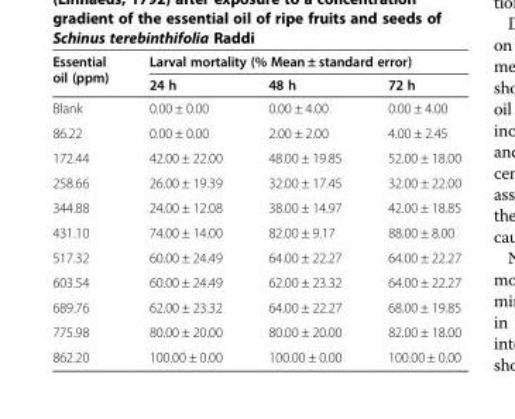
<table><thead><tr><td rowspan="2">Essential oil (ppm)</td><td colspan="3">Larval mortality (% Mean ± standard error)</td></tr><tr><td>24 h</td><td>48 h</td><td>72 h</td></tr></thead><tbody><tr><td>Blank</td><td>0.00 ± 0.00</td><td>0.00 ± 4.00</td><td>0.00 ± 4.00</td></tr><tr><td>86.22</td><td>0.00 ± 0.00</td><td>2.00 ± 2.00</td><td>4.00 ± 2.45</td></tr><tr><td>172.44</td><td>42.00 ± 22.00</td><td>48.00 ± 19.85</td><td>52.00 ± 18.00</td></tr><tr><td>258.66</td><td>26.00 ± 19.39</td><td>32.00 ± 17.45</td><td>32.00 ± 22.00</td></tr><tr><td>344.88</td><td>24.00 ± 12.08</td><td>38.00 ± 14.97</td><td>42.00 ± 18.85</td></tr><tr><td>431.10</td><td>74.00 ± 14.00</td><td>82.00 ± 9.17</td><td>88.00 ± 8.00</td></tr><tr><td>517.32</td><td>60.00 ± 24.49</td><td>64.00 ± 22.27</td><td>64.00 ± 22.27</td></tr><tr><td>603.54</td><td>60.00 ± 24.49</td><td>62.00 ± 23.32</td><td>64.00 ± 22.27</td></tr><tr><td>689.76</td><td>62.00 ± 23.32</td><td>64.00 ± 22.27</td><td>68.00 ± 19.85</td></tr><tr><td>775.98</td><td>80.00 ± 20.00</td><td>80.00 ± 20.00</td><td>82.00 ± 18.00</td></tr><tr><td>862.20</td><td>100.00 ± 0.00</td><td>100.00 ± 0.00</td><td>100.00 ± 0.00</td></tr></tbody></table>